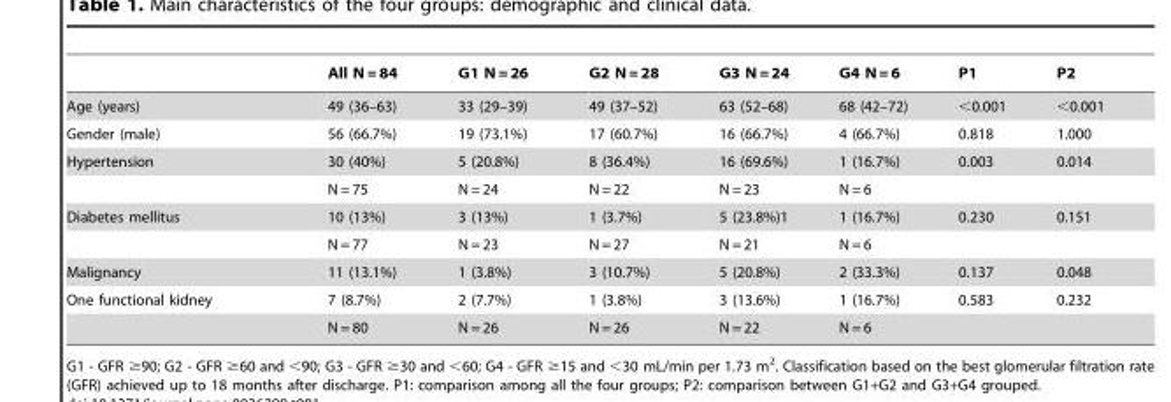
<table><thead><tr><td></td><td>All N = 84</td><td>G1 N = 26</td><td>G2 N = 28</td><td>G3 N = 24</td><td>G4 N = 6</td><td>P1</td><td>P2</td></tr></thead><tbody><tr><td>Age (years)</td><td>49 (36–63)</td><td>33 (29–39)</td><td>49 (37–52)</td><td>63 (52–68)</td><td>68 (42–72)</td><td>&lt;0.001</td><td>&lt;0.001</td></tr><tr><td>Gender (male)</td><td>56 (66.7%)</td><td>19 (73.1%)</td><td>17 (60.7%)</td><td>16 (66.7%)</td><td>4 (66.7%)</td><td>0.818</td><td>1.000</td></tr><tr><td rowspan="2">Hypertension</td><td>30 (40%)</td><td>5 (20.8%)</td><td>8 (36.4%)</td><td>16 (69.6%)</td><td>1 (16.7%)</td><td>0.003</td><td>0.014</td></tr><tr><td>N = 75</td><td>N = 24</td><td>N = 22</td><td>N = 23</td><td>N = 6</td><td></td><td></td></tr><tr><td rowspan="2">Diabetes mellitus</td><td>10 (13%)</td><td>3 (13%)</td><td>1 (3.7%)</td><td>5 (23.8%)1</td><td>1 (16.7%)</td><td>0.230</td><td>0.151</td></tr><tr><td>N = 77</td><td>N = 23</td><td>N = 27</td><td>N = 21</td><td>N = 6</td><td></td><td></td></tr><tr><td>Malignancy</td><td>11 (13.1%)</td><td>1 (3.8%)</td><td>3 (10.7%)</td><td>5 (20.8%)</td><td>2 (33.3%)</td><td>0.137</td><td>0.048</td></tr><tr><td rowspan="2">One functional kidney</td><td>7 (8.7%)</td><td>2 (7.7%)</td><td>1 (3.8%)</td><td>3 (13.6%)</td><td>1 (16.7%)</td><td>0.583</td><td>0.232</td></tr><tr><td>N = 80</td><td>N = 26</td><td>N = 26</td><td>N = 22</td><td>N = 6</td><td></td><td></td></tr></tbody></table>